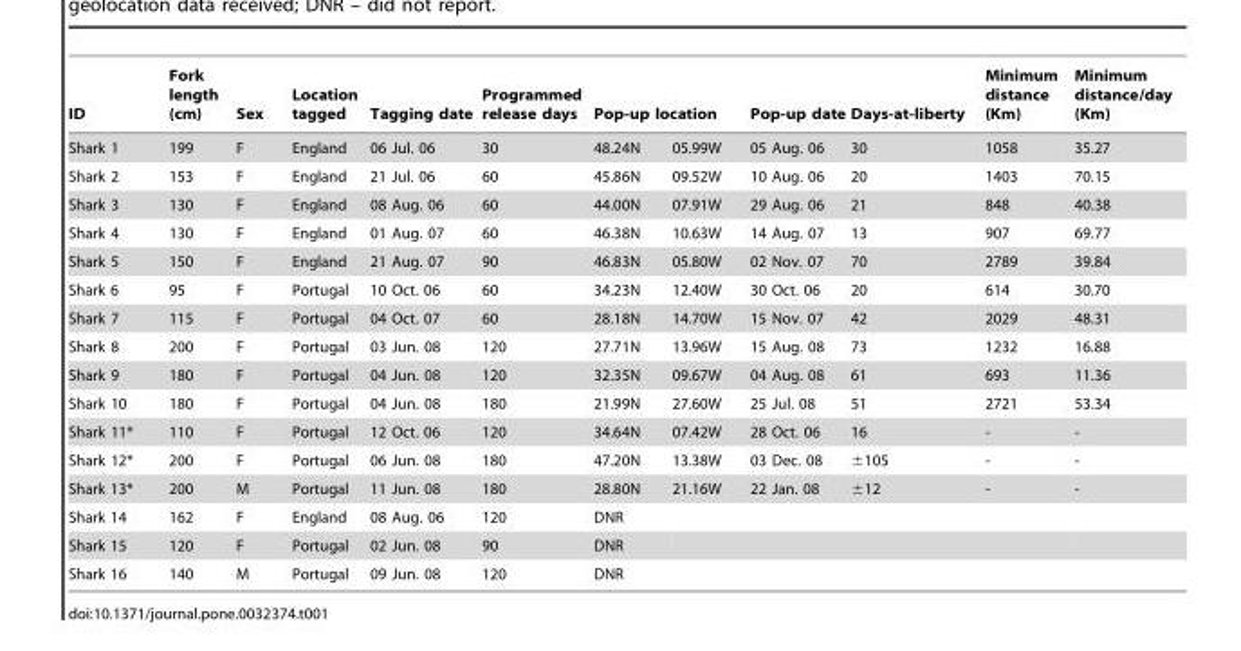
<table><thead><tr><td rowspan="2">ID Shark 1</td><td rowspan="2">Fork length (cm) 199</td><td rowspan="2">Sex F</td><td rowspan="2">Location tagged England</td><td rowspan="2">Tagging date 06 Jul. 06</td><td rowspan="2">Programmed release days 30</td><td colspan="2">Pop-up location</td><td rowspan="2">Pop-up date 05 Aug. 06</td><td rowspan="2">Days-at-liberty 30</td><td rowspan="2">Minimum distance (Km) 1058</td><td rowspan="2">Minimum distance/day (Km) 35.27</td></tr><tr><td>48.24N</td><td>05.99W</td></tr></thead><tbody><tr><td>Shark 2</td><td>153</td><td>F</td><td>England</td><td>21 Jul. 06</td><td>60</td><td>45.86N</td><td>09.52W</td><td>10 Aug. 06</td><td>20</td><td>1403</td><td>70.15</td></tr><tr><td>Shark 3</td><td>130</td><td>F</td><td>England</td><td>08 Aug. 06</td><td>60</td><td>44.00N</td><td>07.91W</td><td>29 Aug. 06</td><td>21</td><td>848</td><td>40.38</td></tr><tr><td>Shark 4</td><td>130</td><td>F</td><td>England</td><td>01 Aug. 07</td><td>60</td><td>46.38N</td><td>10.63W</td><td>14 Aug. 07</td><td>13</td><td>907</td><td>69.77</td></tr><tr><td>Shark 5</td><td>150</td><td>F</td><td>England</td><td>21 Aug. 07</td><td>90</td><td>46.83N</td><td>05.80W</td><td>02 Nov. 07</td><td>70</td><td>2789</td><td>39.84</td></tr><tr><td>Shark 6</td><td>95</td><td>F</td><td>Portugal</td><td>10 Oct. 06</td><td>60</td><td>34.23N</td><td>12.40W</td><td>30 Oct. 06</td><td>20</td><td>614</td><td>30.70</td></tr><tr><td>Shark 7</td><td>115</td><td>F</td><td>Portugal</td><td>04 Oct. 07</td><td>60</td><td>28.18N</td><td>14.70W</td><td>15 Nov. 07</td><td>42</td><td>2029</td><td>48.31</td></tr><tr><td>Shark 8</td><td>200</td><td>F</td><td>Portugal</td><td>03 Jun. 08</td><td>120</td><td>27.71N</td><td>13.96W</td><td>15 Aug. 08</td><td>73</td><td>1232</td><td>16.88</td></tr><tr><td>Shark 9</td><td>180</td><td>F</td><td>Portugal</td><td>04 Jun. 08</td><td>120</td><td>32.35N</td><td>09.67W</td><td>04 Aug. 08</td><td>61</td><td>693</td><td>11.36</td></tr><tr><td>Shark 10</td><td>180</td><td>F</td><td>Portugal</td><td>04 Jun. 08</td><td>180</td><td>21.99N</td><td>27.60W</td><td>25 Jul. 08</td><td>51</td><td>2721</td><td>53.34</td></tr><tr><td>Shark 11*</td><td>110</td><td>F</td><td>Portugal</td><td>12 Oct. 06</td><td>120</td><td>34.64N</td><td>07.42W</td><td>28 Oct. 06</td><td>16</td><td>-</td><td>-</td></tr><tr><td>Shark 12*</td><td>200</td><td>F</td><td>Portugal</td><td>06 Jun. 08</td><td>180</td><td>47.20N</td><td>13.38W</td><td>03 Dec. 08</td><td>±105</td><td>-</td><td>-</td></tr><tr><td>Shark 13*</td><td>200</td><td>M</td><td>Portugal</td><td>11 Jun. 08</td><td>180</td><td>28.80N</td><td>21.16W</td><td>22 Jan. 08</td><td>±12</td><td>-</td><td>-</td></tr><tr><td>Shark 14</td><td>162</td><td>F</td><td>England</td><td>08 Aug. 06</td><td>120</td><td>DNR</td><td></td><td></td><td></td><td></td><td></td></tr><tr><td>Shark 15</td><td>120</td><td>F</td><td>Portugal</td><td>02 Jun. 08</td><td>90</td><td>DNR</td><td></td><td></td><td></td><td></td><td></td></tr><tr><td>Shark 16</td><td>140</td><td>M</td><td>Portugal</td><td>09 Jun. 08</td><td>120</td><td>DNR</td><td></td><td></td><td></td><td></td><td></td></tr></tbody></table>